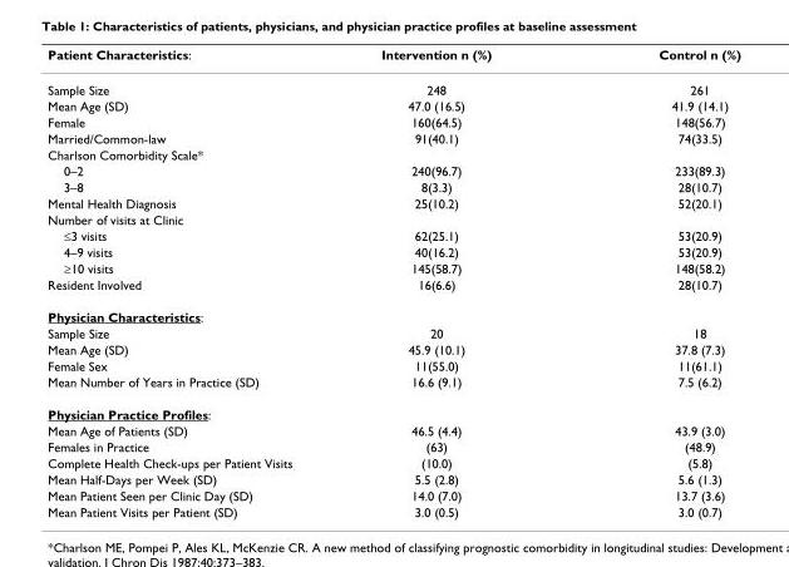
<table><thead><tr><td>Patient Characteristics:</td><td>Intervention n (%)</td><td>Control n (%)</td></tr></thead><tbody><tr><td>Sample Size</td><td>248</td><td>261</td></tr><tr><td>Mean Age (SD)</td><td>47.0 (16.5)</td><td>41.9 (14.1)</td></tr><tr><td>Female</td><td>160(64.5)</td><td>148(56.7)</td></tr><tr><td>Married/Common-law</td><td>91(40.1)</td><td>74(33.5)</td></tr><tr><td colspan="3">Charlson Comorbidity Scale*</td></tr><tr><td>0–2</td><td>240(96.7)</td><td>233(89.3)</td></tr><tr><td>3–8</td><td>8(3.3)</td><td>28(10.7)</td></tr><tr><td>Mental Health Diagnosis</td><td>25(10.2)</td><td>52(20.1)</td></tr><tr><td colspan="3">Number of visits at Clinic</td></tr><tr><td>≤3 visits</td><td>62(25.1)</td><td>53(20.9)</td></tr><tr><td>4–9 visits</td><td>40(16.2)</td><td>53(20.9)</td></tr><tr><td>≥10 visits</td><td>145(58.7)</td><td>148(58.2)</td></tr><tr><td>Resident Involved</td><td>16(6.6)</td><td>28(10.7)</td></tr><tr><td colspan="3">Physician Characteristics:</td></tr><tr><td>Sample Size</td><td>20</td><td>18</td></tr><tr><td>Mean Age (SD)</td><td>45.9 (10.1)</td><td>37.8 (7.3)</td></tr><tr><td>Female Sex</td><td>11(55.0)</td><td>11(61.1)</td></tr><tr><td>Mean Number of Years in Practice (SD)</td><td>16.6 (9.1)</td><td>7.5 (6.2)</td></tr><tr><td colspan="3">Physician Practice Profiles:</td></tr><tr><td>Mean Age of Patients (SD)</td><td>46.5 (4.4)</td><td>43.9 (3.0)</td></tr><tr><td>Females in Practice</td><td>(63)</td><td>(48.9)</td></tr><tr><td>Complete Health Check-ups per Patient Visits</td><td>(10.0)</td><td>(5.8)</td></tr><tr><td>Mean Half-Days per Week (SD)</td><td>5.5 (2.8)</td><td>5.6 (1.3)</td></tr><tr><td>Mean Patient Seen per Clinic Day (SD)</td><td>14.0 (7.0)</td><td>13.7 (3.6)</td></tr><tr><td>Mean Patient Visits per Patient (SD)</td><td>3.0 (0.5)</td><td>3.0 (0.7)</td></tr></tbody></table>